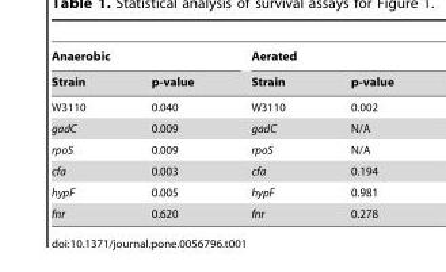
<table><thead><tr><td colspan="2">Anaerobic</td><td colspan="2">Aerated</td></tr><tr><td>Strain</td><td>p-value</td><td>Strain</td><td>p-value</td></tr></thead><tbody><tr><td>W3110</td><td>0.040</td><td>W3110</td><td>0.002</td></tr><tr><td>gadC</td><td>0.009</td><td>gadC</td><td>N/A</td></tr><tr><td>rpoS</td><td>0.009</td><td>rpoS</td><td>N/A</td></tr><tr><td>cfa</td><td>0.003</td><td>cfa</td><td>0.194</td></tr><tr><td>hypF</td><td>0.005</td><td>hypF</td><td>0.981</td></tr><tr><td>fnr</td><td>0.620</td><td>fnr</td><td>0.278</td></tr></tbody></table>